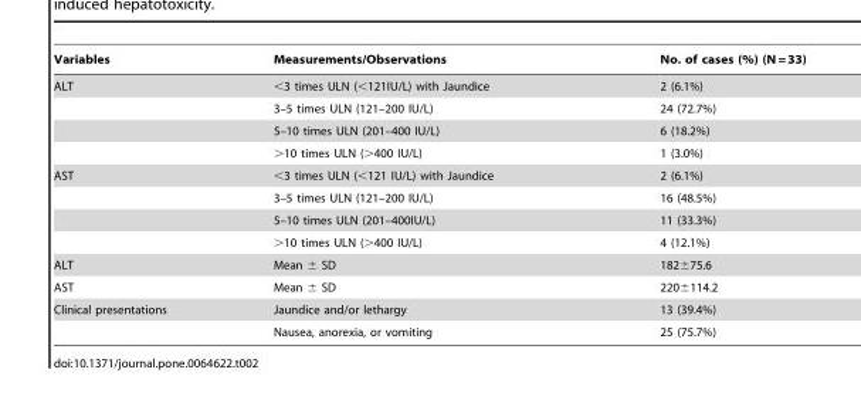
<table><thead><tr><td>Variables</td><td>Measurements/Observations</td><td>No. of cases (%) (N = 33)</td></tr></thead><tbody><tr><td rowspan="4">ALT</td><td>&lt;3 times ULN (&lt;121IU/L) with Jaundice</td><td>2 (6.1%)</td></tr><tr><td>3–5 times ULN (121–200 IU/L)</td><td>24 (72.7%)</td></tr><tr><td>5–10 times ULN (201–400 IU/L)</td><td>6 (18.2%)</td></tr><tr><td>&gt;10 times ULN (&gt;400 IU/L)</td><td>1 (3.0%)</td></tr><tr><td rowspan="4">AST</td><td>&lt;3 times ULN (&lt;121 IU/L) with Jaundice</td><td>2 (6.1%)</td></tr><tr><td>3–5 times ULN (121–200 IU/L)</td><td>16 (48.5%)</td></tr><tr><td>5–10 times ULN (201–400IU/L)</td><td>11 (33.3%)</td></tr><tr><td>&gt;10 times ULN (&gt;400 IU/L)</td><td>4 (12.1%)</td></tr><tr><td>ALT</td><td>Mean ± SD</td><td>182±75.6</td></tr><tr><td>AST</td><td>Mean ± SD</td><td>220±114.2</td></tr><tr><td rowspan="2">Clinical presentations</td><td>Jaundice and/or lethargy</td><td>13 (39.4%)</td></tr><tr><td>Nausea, anorexia, or vomiting</td><td>25 (75.7%)</td></tr></tbody></table>